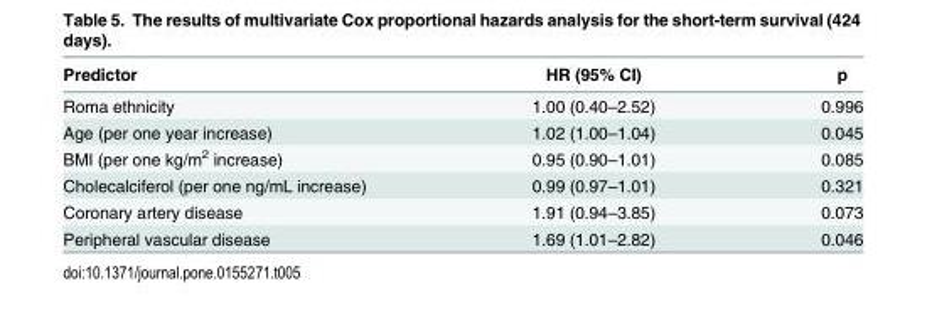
<table><thead><tr><td>Predictor</td><td>HR (95% CI)</td><td>p</td></tr></thead><tbody><tr><td>Roma ethnicity</td><td>1.00 (0.40–2.52)</td><td>0.996</td></tr><tr><td>Age (per one year increase)</td><td>1.02 (1.00–1.04)</td><td>0.045</td></tr><tr><td>BMI (per one kg/m<sup>2</sup> increase)</td><td>0.95 (0.90–1.01)</td><td>0.085</td></tr><tr><td>Cholecalciferol (per one ng/mL increase)</td><td>0.99 (0.97–1.01)</td><td>0.321</td></tr><tr><td>Coronary artery disease</td><td>1.91 (0.94–3.85)</td><td>0.073</td></tr><tr><td>Peripheral vascular disease</td><td>1.69 (1.01–2.82)</td><td>0.046</td></tr></tbody></table>